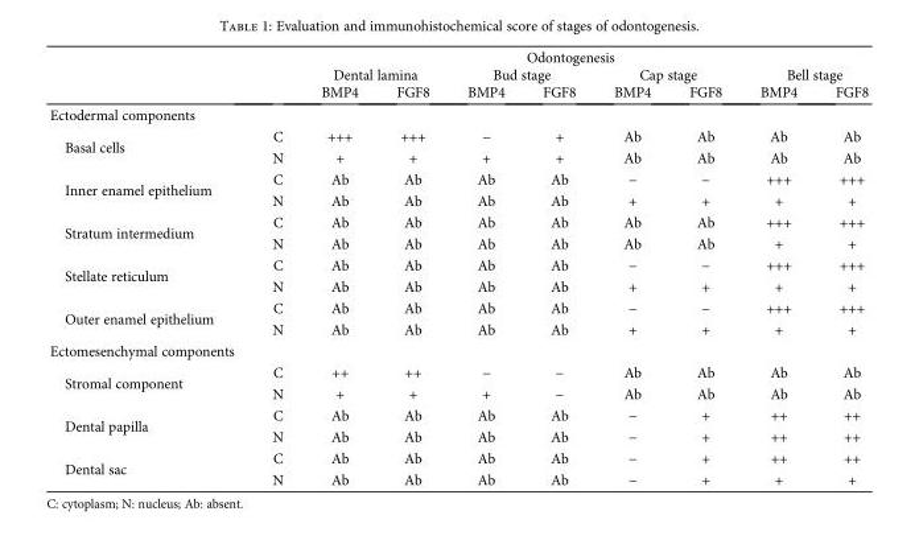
<table><thead><tr><td rowspan="3"></td><td colspan="9">Odontogenesis</td></tr><tr><td rowspan="2"></td><td colspan="2">Dental lamina</td><td colspan="2">Bud stage</td><td colspan="2">Cap stage</td><td colspan="2">Bell stage</td></tr><tr><td>BMP4</td><td>FGF8</td><td>BMP4</td><td>FGF8</td><td>BMP4</td><td>FGF8</td><td>BMP4</td><td>FGF8</td></tr></thead><tbody><tr><td colspan="10">Ectodermal components</td></tr><tr><td rowspan="2">Basal cells</td><td>C</td><td>+++</td><td>+++</td><td>−</td><td>+</td><td>Ab</td><td>Ab</td><td>Ab</td><td>Ab</td></tr><tr><td>N</td><td>+</td><td>+</td><td>+</td><td>+</td><td>Ab</td><td>Ab</td><td>Ab</td><td>Ab</td></tr><tr><td rowspan="2">Inner enamel epithelium</td><td>C</td><td>Ab</td><td>Ab</td><td>Ab</td><td>Ab</td><td>−</td><td>−</td><td>+++</td><td>+++</td></tr><tr><td>N</td><td>Ab</td><td>Ab</td><td>Ab</td><td>Ab</td><td>+</td><td>+</td><td>+</td><td>+</td></tr><tr><td rowspan="2">Stratum intermedium</td><td>C</td><td>Ab</td><td>Ab</td><td>Ab</td><td>Ab</td><td>Ab</td><td>Ab</td><td>+++</td><td>+++</td></tr><tr><td>N</td><td>Ab</td><td>Ab</td><td>Ab</td><td>Ab</td><td>Ab</td><td>Ab</td><td>+</td><td>+</td></tr><tr><td rowspan="2">Stellate reticulum</td><td>C</td><td>Ab</td><td>Ab</td><td>Ab</td><td>Ab</td><td>−</td><td>−</td><td>+++</td><td>+++</td></tr><tr><td>N</td><td>Ab</td><td>Ab</td><td>Ab</td><td>Ab</td><td>+</td><td>+</td><td>+</td><td>+</td></tr><tr><td rowspan="2">Outer enamel epithelium</td><td>C</td><td>Ab</td><td>Ab</td><td>Ab</td><td>Ab</td><td>−</td><td>−</td><td>+++</td><td>+++</td></tr><tr><td>N</td><td>Ab</td><td>Ab</td><td>Ab</td><td>Ab</td><td>+</td><td>+</td><td>+</td><td>+</td></tr><tr><td colspan="10">Ectomesenchymal components</td></tr><tr><td rowspan="2">Stromal component</td><td>C</td><td>++</td><td>++</td><td>−</td><td>−</td><td>Ab</td><td>Ab</td><td>Ab</td><td>Ab</td></tr><tr><td>N</td><td>+</td><td>+</td><td>+</td><td>−</td><td>Ab</td><td>Ab</td><td>Ab</td><td>Ab</td></tr><tr><td rowspan="2">Dental papilla</td><td>C</td><td>Ab</td><td>Ab</td><td>Ab</td><td>Ab</td><td>−</td><td>+</td><td>++</td><td>++</td></tr><tr><td>N</td><td>Ab</td><td>Ab</td><td>Ab</td><td>Ab</td><td>−</td><td>+</td><td>++</td><td>++</td></tr><tr><td rowspan="2">Dental sac</td><td>C</td><td>Ab</td><td>Ab</td><td>Ab</td><td>Ab</td><td>−</td><td>+</td><td>++</td><td>++</td></tr><tr><td>N</td><td>Ab</td><td>Ab</td><td>Ab</td><td>Ab</td><td>−</td><td>+</td><td>+</td><td>+</td></tr></tbody></table>